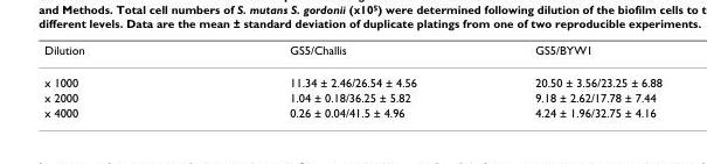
<table><thead><tr><td>Dilution</td><td>GS5/Challis</td><td>GS5/BYW1</td></tr></thead><tbody><tr><td>x 1000</td><td>11.34 ± 2.46/26.54 ± 4.56</td><td>20.50 ± 3.56/23.25 ± 6.88</td></tr><tr><td>x 2000</td><td>1.04 ± 0.18/36.25 ± 5.82</td><td>9.18 ± 2.62/17.78 ± 7.44</td></tr><tr><td>x 4000</td><td>0.26 ± 0.04/41.5 ± 4.96</td><td>4.24 ± 1.96/32.75 ± 4.16</td></tr></tbody></table>